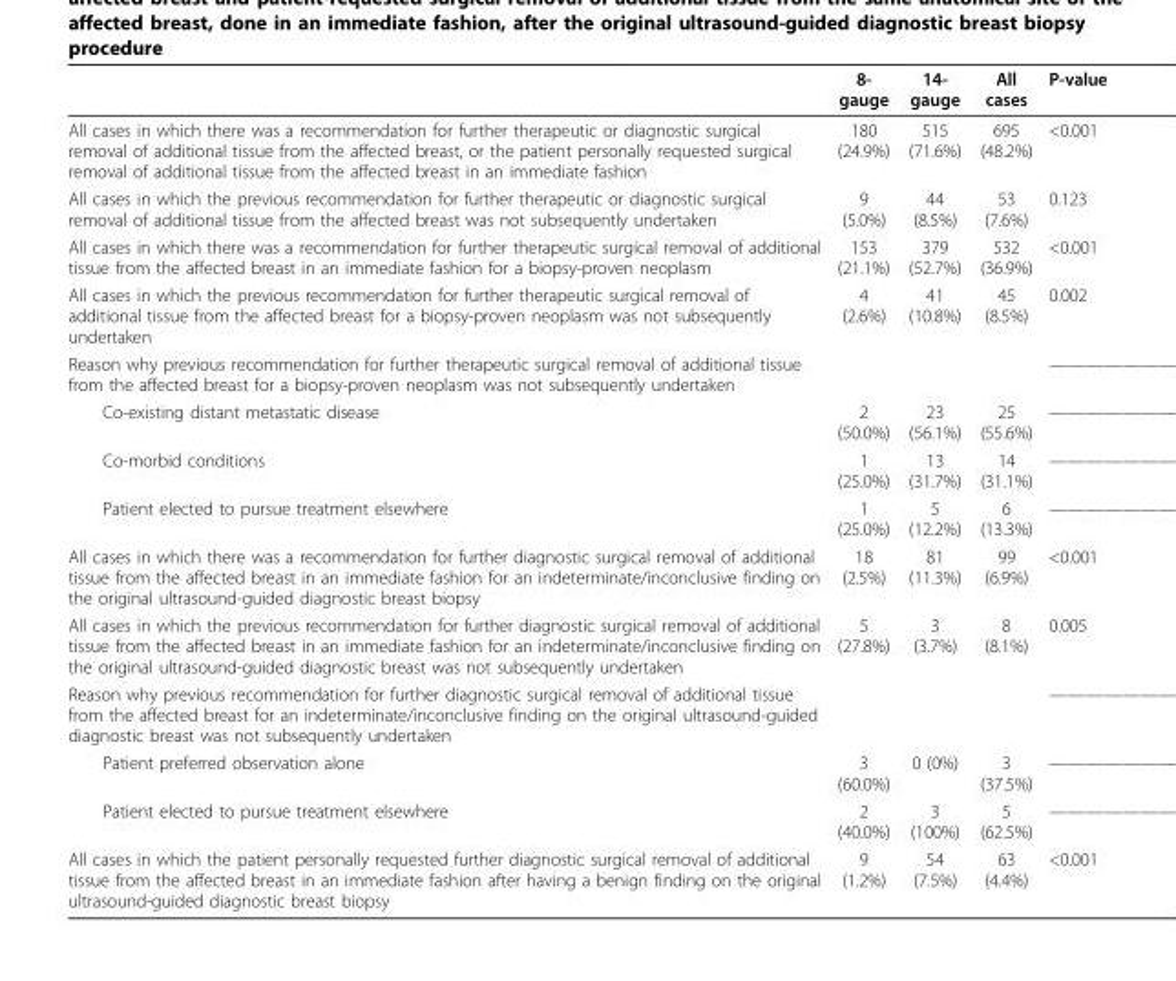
<table><thead><tr><td></td><td>8- gauge</td><td>14- gauge</td><td>All cases</td><td>P-value</td></tr></thead><tbody><tr><td>All cases in which there was a recommendation for further therapeutic or diagnostic surgical removal of additional tissue from the affected breast, or the patient personally requested surgical removal of additional tissue from the affected breast in an immediate fashion</td><td>180 (24.9%)</td><td>515 (71.6%)</td><td>695 (48.2%)</td><td>&lt;0.001</td></tr><tr><td>All cases in which the previous recommendation for further therapeutic or diagnostic surgical removal of additional tissue from the affected breast was not subsequently undertaken</td><td>9 (5.0%)</td><td>44 (8.5%)</td><td>53 (7.6%)</td><td>0.123</td></tr><tr><td>All cases in which there was a recommendation for further therapeutic surgical removal of additional tissue from the affected breast in an immediate fashion for a biopsy-proven neoplasm</td><td>153 (21.1%)</td><td>379 (52.7%)</td><td>532 (36.9%)</td><td>&lt;0.001</td></tr><tr><td>All cases in which the previous recommendation for further therapeutic surgical removal of additional tissue from the affected breast for a biopsy-proven neoplasm was not subsequently undertaken</td><td>4 (2.6%)</td><td>41 (10.8%)</td><td>45 (8.5%)</td><td>0.002</td></tr><tr><td>Reason why previous recommendation for further therapeutic surgical removal of additional tissue from the affected breast for a biopsy-proven neoplasm was not subsequently undertaken</td><td></td><td></td><td></td><td></td></tr><tr><td>Co-existing distant metastatic disease</td><td>2 (50.0%)</td><td>23 (56.1%)</td><td>25 (55.6%)</td><td></td></tr><tr><td>Co-morbid conditions</td><td>1 (25.0%)</td><td>13 (31.7%)</td><td>14 (31.1%)</td><td></td></tr><tr><td>Patient elected to pursue treatment elsewhere</td><td>1 (25.0%)</td><td>5 (12.2%)</td><td>6 (13.3%)</td><td></td></tr><tr><td>All cases in which there was a recommendation for further diagnostic surgical removal of additional tissue from the affected breast in an immediate fashion for an indeterminate/inconclusive finding on the original ultrasound-guided diagnostic breast biopsy</td><td>18 (2.5%)</td><td>81 (11.3%)</td><td>99 (6.9%)</td><td>&lt;0.001</td></tr><tr><td>All cases in which the previous recommendation for further diagnostic surgical removal of additional tissue from the affected breast in an immediate fashion for an indeterminate/inconclusive finding on the original ultrasound-guided diagnostic breast was not subsequently undertaken</td><td>5 (27.8%)</td><td>3 (3.7%)</td><td>8 (8.1%)</td><td>0.005</td></tr><tr><td>Reason why previous recommendation for further diagnostic surgical removal of additional tissue from the affected breast for an indeterminate/inconclusive finding on the original ultrasound-guided diagnostic breast was not subsequently undertaken</td><td></td><td></td><td></td><td></td></tr><tr><td>Patient preferred observation alone</td><td>3 (60.0%)</td><td>0 (0%)</td><td>3 (37.5%)</td><td></td></tr><tr><td>Patient elected to pursue treatment elsewhere</td><td>2 (40.0%)</td><td>3 (100%)</td><td>5 (62.5%)</td><td></td></tr><tr><td>All cases in which the patient personally requested further diagnostic surgical removal of additional tissue from the affected breast in an immediate fashion after having a benign finding on the original ultrasound-guided diagnostic breast biopsy</td><td>9 (1.2%)</td><td>54 (7.5%)</td><td>63 (4.4%)</td><td>&lt;0.001</td></tr></tbody></table>